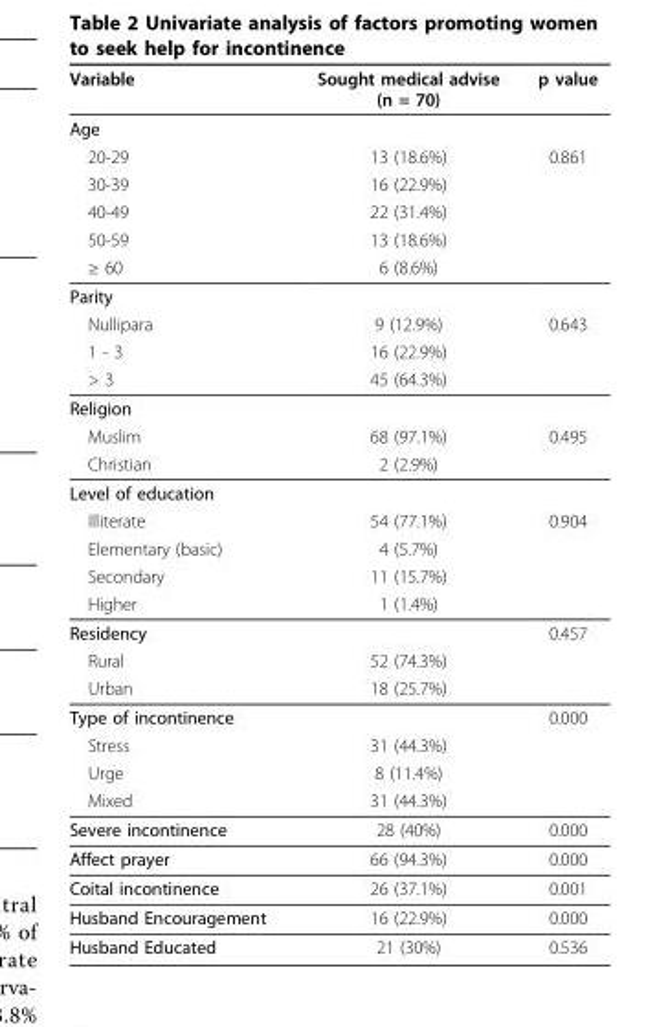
<table><thead><tr><td>Variable</td><td>Sought medical advise (n = 70)</td><td>p value</td></tr></thead><tbody><tr><td colspan="3">Age</td></tr><tr><td>20-29</td><td>13 (18.6%)</td><td>0.861</td></tr><tr><td>30-39</td><td>16 (22.9%)</td><td></td></tr><tr><td>40-49</td><td>22 (31.4%)</td><td></td></tr><tr><td>50-59</td><td>13 (18.6%)</td><td></td></tr><tr><td>≥ 60</td><td>6 (8.6%)</td><td></td></tr><tr><td colspan="3">Parity</td></tr><tr><td>Nullipara</td><td>9 (12.9%)</td><td>0.643</td></tr><tr><td>1 - 3</td><td>16 (22.9%)</td><td></td></tr><tr><td>&gt; 3</td><td>45 (64.3%)</td><td></td></tr><tr><td colspan="3">Religion</td></tr><tr><td>Muslim</td><td>68 (97.1%)</td><td>0.495</td></tr><tr><td>Christian</td><td>2 (2.9%)</td><td></td></tr><tr><td colspan="3">Level of education</td></tr><tr><td>Illiterate</td><td>54 (77.1%)</td><td>0.904</td></tr><tr><td>Elementary (basic)</td><td>4 (5.7%)</td><td></td></tr><tr><td>Secondary</td><td>11 (15.7%)</td><td></td></tr><tr><td>Higher</td><td>1 (1.4%)</td><td></td></tr><tr><td>Residency</td><td></td><td>0.457</td></tr><tr><td>Rural</td><td>52 (74.3%)</td><td></td></tr><tr><td>Urban</td><td>18 (25.7%)</td><td></td></tr><tr><td>Type of incontinence</td><td></td><td>0.000</td></tr><tr><td>Stress</td><td>31 (44.3%)</td><td></td></tr><tr><td>Urge</td><td>8 (11.4%)</td><td></td></tr><tr><td>Mixed</td><td>31 (44.3%)</td><td></td></tr><tr><td>Severe incontinence</td><td>28 (40%)</td><td>0.000</td></tr><tr><td>Affect prayer</td><td>66 (94.3%)</td><td>0.000</td></tr><tr><td>Coital incontinence</td><td>26 (37.1%)</td><td>0.001</td></tr><tr><td>Husband Encouragement</td><td>16 (22.9%)</td><td>0.000</td></tr><tr><td>Husband Educated</td><td>21 (30%)</td><td>0.536</td></tr></tbody></table>